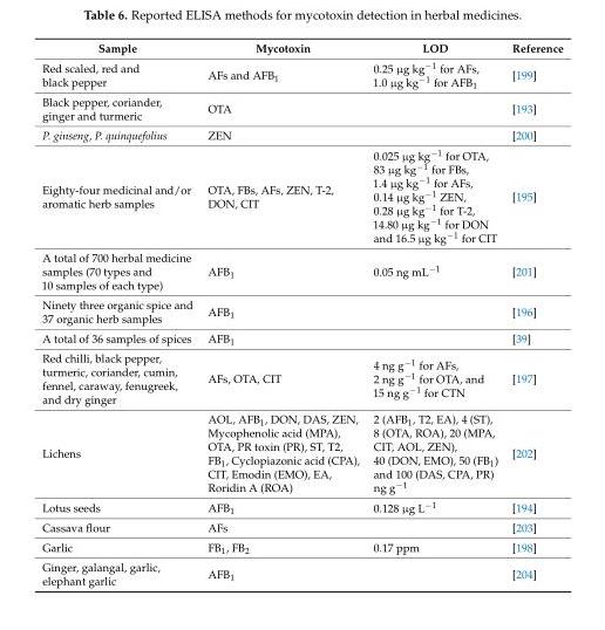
<table><thead><tr><td>Sample</td><td>Mycotoxin</td><td>LOD</td><td>Reference</td></tr></thead><tbody><tr><td>Red scaled, red and black pepper</td><td>AFs and AFB<sub>1</sub></td><td>0.25 µg kg<sup>−1</sup> for AFs, 1.0 µg kg<sup>−1</sup> for AFB<sub>1</sub></td><td>[199]</td></tr><tr><td>Black pepper, coriander, ginger and turmeric</td><td>OTA</td><td></td><td>[193]</td></tr><tr><td>P. ginseng, P. quinquefolius</td><td>ZEN</td><td></td><td>[200]</td></tr><tr><td>Eighty-four medicinal and/or aromatic herb samples</td><td>OTA, FBs, AFs, ZEN, T-2, DON, CIT</td><td>0.025 µg kg<sup>−1</sup> for OTA, 83 µg kg<sup>−1</sup> for FBs, 1.4 µg kg<sup>−1</sup> for AFs, 0.14 µg kg<sup>−1</sup> ZEN, 0.28 µg kg<sup>−1</sup> for T-2, 14.80 µg kg<sup>−1</sup> for DON and 16.5 µg kg<sup>−1</sup> for CIT</td><td>[195]</td></tr><tr><td>A total of 700 herbal medicine samples (70 types and 10 samples of each type)</td><td>AFB<sub>1</sub></td><td>0.05 ng mL<sup>−1</sup></td><td>[201]</td></tr><tr><td>Ninety three organic spice and 37 organic herb samples</td><td>AFB<sub>1</sub></td><td></td><td>[196]</td></tr><tr><td>A total of 36 samples of spices</td><td>AFB<sub>1</sub></td><td></td><td>[39]</td></tr><tr><td>Red chilli, black pepper, turmeric, coriander, cumin, fennel, caraway, fenugreek, and dry ginger</td><td>AFs, OTA, CIT</td><td>4 ng g<sup>−1</sup> for AFs, 2 ng g<sup>−1</sup> for OTA, and 15 ng g<sup>−1</sup> for CTN</td><td>[197]</td></tr><tr><td>Lichens</td><td>AOL, AFB<sub>1</sub>, DON, DAS, ZEN, Mycophenolic acid (MPA), OTA, PR toxin (PR), ST, T2, FB<sub>1</sub>, Cyclopiazonic acid (CPA), CIT, Emodin (EMO), EA, Roridin A (ROA)</td><td>2 (AFB<sub>1</sub>, T2, EA), 4 (ST), 8 (OTA, ROA), 20 (MPA, CIT, AOL, ZEN), 40 (DON, EMO), 50 (FB<sub>1</sub>) and 100 (DAS, CPA, PR) ng g<sup>−1</sup></td><td>[202]</td></tr><tr><td>Lotus seeds</td><td>AFB<sub>1</sub></td><td>0.128 µg L<sup>−1</sup></td><td>[194]</td></tr><tr><td>Cassava flour</td><td>AFs</td><td></td><td>[203]</td></tr><tr><td>Garlic</td><td>FB<sub>1</sub>, FB<sub>2</sub></td><td>0.17 ppm</td><td>[198]</td></tr><tr><td>Ginger, galangal, garlic, elephant garlic</td><td>AFB<sub>1</sub></td><td></td><td>[204]</td></tr></tbody></table>